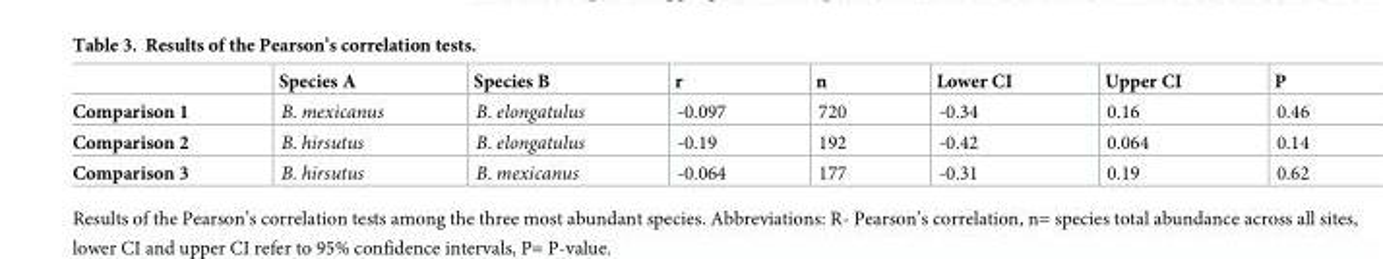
<table><thead><tr><td></td><td>Species A</td><td>Species B</td><td>r</td><td>n</td><td>Lower CI</td><td>Upper CI</td><td>P</td></tr></thead><tbody><tr><td>Comparison 1</td><td>B. mexicanus</td><td>B. elongatulus</td><td>-0.097</td><td>720</td><td>-0.34</td><td>0.16</td><td>0.46</td></tr><tr><td>Comparison 2</td><td>B. hirsutus</td><td>B. elongatulus</td><td>-0.19</td><td>192</td><td>-0.42</td><td>0.064</td><td>0.14</td></tr><tr><td>Comparison 3</td><td>B. hirsutus</td><td>B. mexicanus</td><td>-0.064</td><td>177</td><td>-0.31</td><td>0.19</td><td>0.62</td></tr></tbody></table>